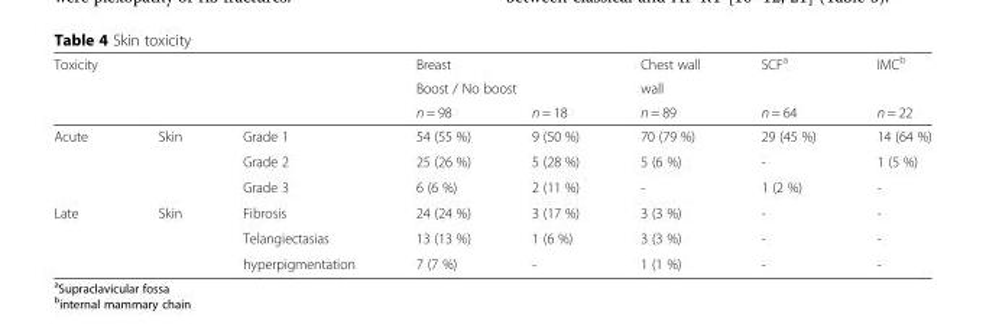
<table><thead><tr><td rowspan="3">Toxicity</td><td rowspan="3"></td><td rowspan="3"></td><td rowspan="2" colspan="2">Breast Boost / No boost</td><td rowspan="3">Chest wall wall n = 89</td><td rowspan="3">SCF<sup>a</sup> n = 64</td><td rowspan="3">IMC<sup>b</sup> n = 22</td></tr><tr></tr><tr><td>n = 98</td><td>n = 18</td></tr></thead><tbody><tr><td rowspan="3">Acute</td><td rowspan="3">Skin</td><td>Grade 1</td><td>54 (55 %)</td><td>9 (50 %)</td><td>70 (79 %)</td><td>29 (45 %)</td><td>14 (64 %)</td></tr><tr><td>Grade 2</td><td>25 (26 %)</td><td>5 (28 %)</td><td>5 (6 %)</td><td>-</td><td>1 (5 %)</td></tr><tr><td>Grade 3</td><td>6 (6 %)</td><td>2 (11 %)</td><td>-</td><td>1 (2 %)</td><td>-</td></tr><tr><td rowspan="3">Late</td><td rowspan="3">Skin</td><td>Fibrosis</td><td>24 (24 %)</td><td>3 (17 %)</td><td>3 (3 %)</td><td>-</td><td>-</td></tr><tr><td>Telangiectasias</td><td>13 (13 %)</td><td>1 (6 %)</td><td>3 (3 %)</td><td>-</td><td>-</td></tr><tr><td>hyperpigmentation</td><td>7 (7 %)</td><td>-</td><td>1 (1 %)</td><td>-</td><td>-</td></tr></tbody></table>